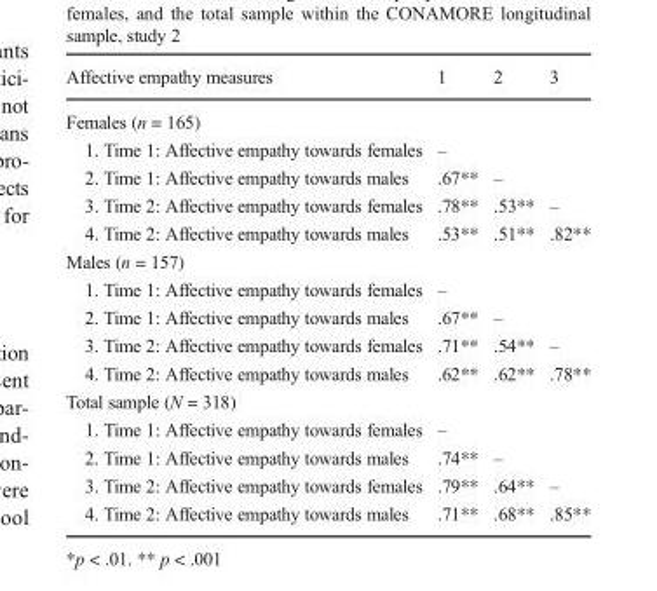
<table><thead><tr><td>Affective empathy measures</td><td>1</td><td>2</td><td>3</td></tr></thead><tbody><tr><td colspan="4">Females (n = 165)</td></tr><tr><td>1. Time 1: Affective empathy towards females</td><td>–</td><td></td><td></td></tr><tr><td>2. Time 1: Affective empathy towards males</td><td>.67**</td><td>–</td><td></td></tr><tr><td>3. Time 2: Affective empathy towards females</td><td>.78**</td><td>.53**</td><td>–</td></tr><tr><td>4. Time 2: Affective empathy towards males</td><td>.53**</td><td>.51**</td><td>.82**</td></tr><tr><td colspan="4">Males (n = 157)</td></tr><tr><td>1. Time 1: Affective empathy towards females</td><td>–</td><td></td><td></td></tr><tr><td>2. Time 1: Affective empathy towards males</td><td>.67**</td><td>–</td><td></td></tr><tr><td>3. Time 2: Affective empathy towards females</td><td>.71**</td><td>.54**</td><td>–</td></tr><tr><td>4. Time 2: Affective empathy towards males</td><td>.62**</td><td>.62**</td><td>.78**</td></tr><tr><td colspan="4">Total sample (N = 318)</td></tr><tr><td>1. Time 1: Affective empathy towards females</td><td>–</td><td></td><td></td></tr><tr><td>2. Time 1: Affective empathy towards males</td><td>.74**</td><td>–</td><td></td></tr><tr><td>3. Time 2: Affective empathy towards females</td><td>.79**</td><td>.64**</td><td>–</td></tr><tr><td>4. Time 2: Affective empathy towards males</td><td>.71**</td><td>.68**</td><td>.85**</td></tr></tbody></table>